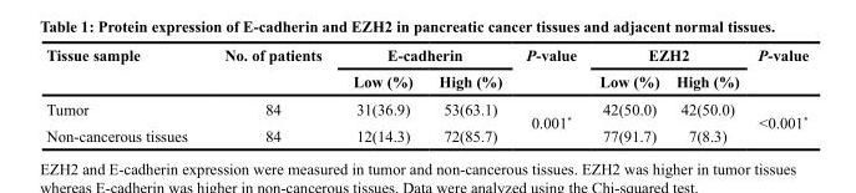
<table><thead><tr><td rowspan="2">Tissue sample</td><td rowspan="2">No. of patients</td><td colspan="2">E-cadherin</td><td rowspan="2">P-value</td><td colspan="2">EZH2</td><td rowspan="2">P-value</td></tr><tr><td>Low (%)</td><td>High (%)</td><td>Low (%)</td><td>High (%)</td></tr></thead><tbody><tr><td>Tumor</td><td>84</td><td>31(36.9)</td><td>53(63.1)</td><td rowspan="2">0.001*</td><td>42(50.0)</td><td>42(50.0)</td><td rowspan="2">&lt;0.001*</td></tr><tr><td>Non-cancerous tissues</td><td>84</td><td>12(14.3)</td><td>72(85.7)</td><td>77(91.7)</td><td>7(8.3)</td></tr></tbody></table>